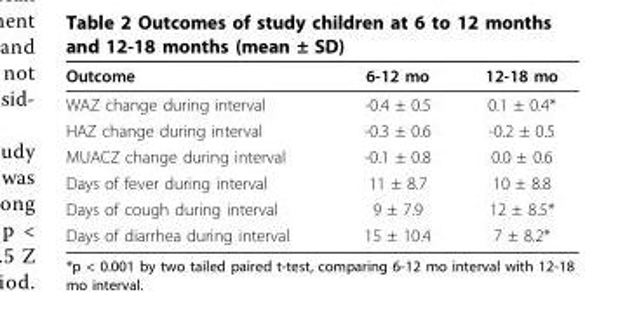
<table><thead><tr><td>Outcome</td><td>6-12 mo</td><td>12-18 mo</td></tr></thead><tbody><tr><td>WAZ change during interval</td><td>-0.4 ± 0.5</td><td>0.1 ± 0.4*</td></tr><tr><td>HAZ change during interval</td><td>-0.3 ± 0.6</td><td>-0.2 ± 0.5</td></tr><tr><td>MUACZ change during interval</td><td>-0.1 ± 0.8</td><td>0.0 ± 0.6</td></tr><tr><td>Days of fever during interval</td><td>11 ± 8.7</td><td>10 ± 8.8</td></tr><tr><td>Days of cough during interval</td><td>9 ± 7.9</td><td>12 ± 8.5*</td></tr><tr><td>Days of diarrhea during interval</td><td>15 ± 10.4</td><td>7 ± 8.2*</td></tr></tbody></table>